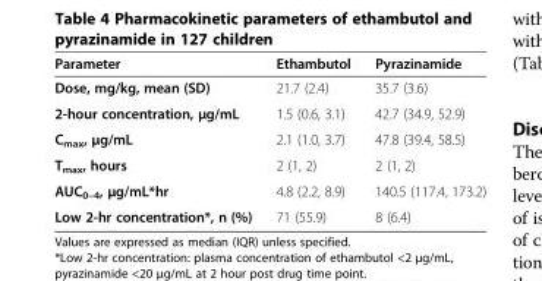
<table><thead><tr><td>Parameter</td><td>Ethambutol</td><td>Pyrazinamide</td></tr></thead><tbody><tr><td>Dose, mg/kg, mean (SD)</td><td>21.7 (2.4)</td><td>35.7 (3.6)</td></tr><tr><td>2-hour concentration, μg/mL</td><td>1.5 (0.6, 3.1)</td><td>42.7 (34.9, 52.9)</td></tr><tr><td>C<sub>max</sub>, μg/mL</td><td>2.1 (1.0, 3.7)</td><td>47.8 (39.4, 58.5)</td></tr><tr><td>T<sub>max</sub>, hours</td><td>2 (1, 2)</td><td>2 (1, 2)</td></tr><tr><td>AUC<sub>0–4</sub>, μg/mL*hr</td><td>4.8 (2.2, 8.9)</td><td>140.5 (117.4, 173.2)</td></tr><tr><td>Low 2-hr concentration*, n (%)</td><td>71 (55.9)</td><td>8 (6.4)</td></tr></tbody></table>